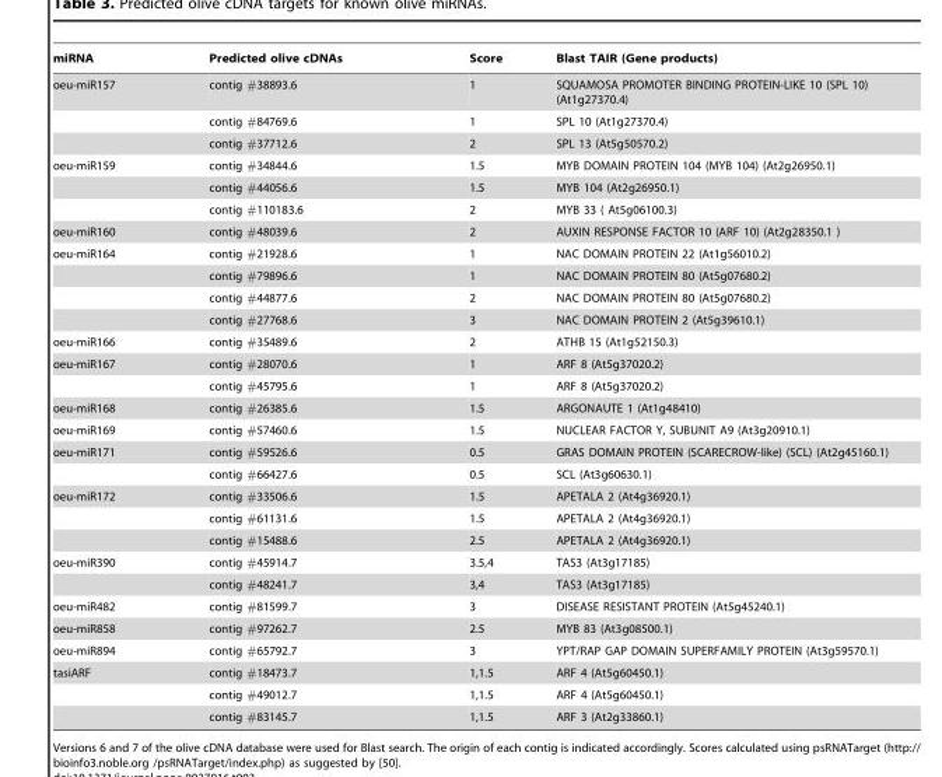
<table><thead><tr><td>miRNA</td><td>Predicted olive cDNAs</td><td>Score</td><td>Blast TAIR (Gene products)</td></tr></thead><tbody><tr><td rowspan="3">oeu-miR157</td><td>contig #38893.6</td><td>1</td><td>SQUAMOSA PROMOTER BINDING PROTEIN-LIKE 10 (SPL 10) (At1g27370.4)</td></tr><tr><td>contig #84769.6</td><td>1</td><td>SPL 10 (At1g27370.4)</td></tr><tr><td>contig #37712.6</td><td>2</td><td>SPL 13 (At5g50570.2)</td></tr><tr><td rowspan="3">oeu-miR159</td><td>contig #34844.6</td><td>1.5</td><td>MYB DOMAIN PROTEIN 104 (MYB 104) (At2g26950.1)</td></tr><tr><td>contig #44056.6</td><td>1.5</td><td>MYB 104 (At2g26950.1)</td></tr><tr><td>contig #110183.6</td><td>2</td><td>MYB 33 ( At5g06100.3)</td></tr><tr><td>oeu-miR160</td><td>contig #48039.6</td><td>2</td><td>AUXIN RESPONSE FACTOR 10 (ARF 10) (At2g28350.1 )</td></tr><tr><td rowspan="4">oeu-miR164</td><td>contig #21928.6</td><td>1</td><td>NAC DOMAIN PROTEIN 22 (At1g56010.2)</td></tr><tr><td>contig #79896.6</td><td>1</td><td>NAC DOMAIN PROTEIN 80 (At5g07680.2)</td></tr><tr><td>contig #44877.6</td><td>2</td><td>NAC DOMAIN PROTEIN 80 (At5g07680.2)</td></tr><tr><td>contig #27768.6</td><td>3</td><td>NAC DOMAIN PROTEIN 2 (At5g39610.1)</td></tr><tr><td>oeu-miR166</td><td>contig #35489.6</td><td>2</td><td>ATHB 15 (At1g52150.3)</td></tr><tr><td rowspan="2">oeu-miR167</td><td>contig #28070.6</td><td>1</td><td>ARF 8 (At5g37020.2)</td></tr><tr><td>contig #45795.6</td><td>1</td><td>ARF 8 (At5g37020.2)</td></tr><tr><td>oeu-miR168</td><td>contig #26385.6</td><td>1.5</td><td>ARGONAUTE 1 (At1g48410)</td></tr><tr><td>oeu-miR169</td><td>contig #57460.6</td><td>1.5</td><td>NUCLEAR FACTOR Y, SUBUNIT A9 (At3g20910.1)</td></tr><tr><td rowspan="2">oeu-miR171</td><td>contig #59526.6</td><td>0.5</td><td>GRAS DOMAIN PROTEIN (SCARECROW-like) (SCL) (At2g45160.1)</td></tr><tr><td>contig #66427.6</td><td>0.5</td><td>SCL (At3g60630.1)</td></tr><tr><td rowspan="3">oeu-miR172</td><td>contig #33506.6</td><td>1.5</td><td>APETALA 2 (At4g36920.1)</td></tr><tr><td>contig #61131.6</td><td>1.5</td><td>APETALA 2 (At4g36920.1)</td></tr><tr><td>contig #15488.6</td><td>2.5</td><td>APETALA 2 (At4g36920.1)</td></tr><tr><td rowspan="2">oeu-miR390</td><td>contig #45914.7</td><td>3.5,4</td><td>TAS3 (At3g17185)</td></tr><tr><td>contig #48241.7</td><td>3,4</td><td>TAS3 (At3g17185)</td></tr><tr><td>oeu-miR482</td><td>contig #81599.7</td><td>3</td><td>DISEASE RESISTANT PROTEIN (At5g45240.1)</td></tr><tr><td>oeu-miR858</td><td>contig #97262.7</td><td>2.5</td><td>MYB 83 (At3g08500.1)</td></tr><tr><td>oeu-miR894</td><td>contig #65792.7</td><td>3</td><td>YPT/RAP GAP DOMAIN SUPERFAMILY PROTEIN (At3g59570.1)</td></tr><tr><td rowspan="3">tasiARF</td><td>contig #18473.7</td><td>1,1.5</td><td>ARF 4 (At5g60450.1)</td></tr><tr><td>contig #49012.7</td><td>1,1.5</td><td>ARF 4 (At5g60450.1)</td></tr><tr><td>contig #83145.7</td><td>1,1.5</td><td>ARF 3 (At2g33860.1)</td></tr></tbody></table>